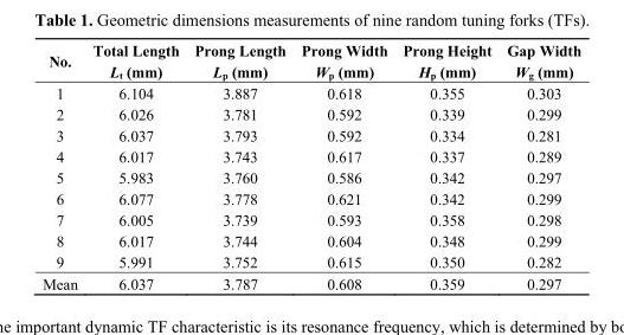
<table><thead><tr><td>No.</td><td>Total Length L<sub>t</sub> (mm)</td><td>Prong Length L<sub>p</sub> (mm)</td><td>Prong Width W<sub>p</sub> (mm)</td><td>Prong Height H<sub>p</sub> (mm)</td><td>Gap Width W<sub>g</sub> (mm)</td></tr></thead><tbody><tr><td>1</td><td>6.104</td><td>3.887</td><td>0.618</td><td>0.355</td><td>0.303</td></tr><tr><td>2</td><td>6.026</td><td>3.781</td><td>0.592</td><td>0.339</td><td>0.299</td></tr><tr><td>3</td><td>6.037</td><td>3.793</td><td>0.592</td><td>0.334</td><td>0.281</td></tr><tr><td>4</td><td>6.017</td><td>3.743</td><td>0.617</td><td>0.337</td><td>0.289</td></tr><tr><td>5</td><td>5.983</td><td>3.760</td><td>0.586</td><td>0.342</td><td>0.297</td></tr><tr><td>6</td><td>6.077</td><td>3.778</td><td>0.621</td><td>0.342</td><td>0.299</td></tr><tr><td>7</td><td>6.005</td><td>3.739</td><td>0.593</td><td>0.358</td><td>0.298</td></tr><tr><td>8</td><td>6.017</td><td>3.744</td><td>0.604</td><td>0.348</td><td>0.299</td></tr><tr><td>9</td><td>5.991</td><td>3.752</td><td>0.615</td><td>0.350</td><td>0.282</td></tr><tr><td>Mean</td><td>6.037</td><td>3.787</td><td>0.608</td><td>0.359</td><td>0.297</td></tr></tbody></table>